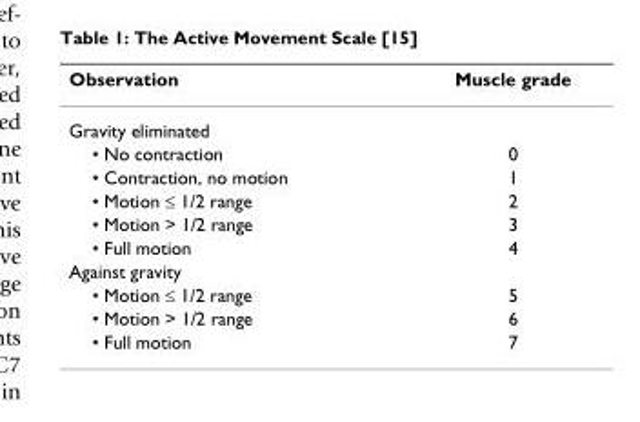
<table><thead><tr><td>Observation</td><td>Muscle grade</td></tr></thead><tbody><tr><td colspan="2">Gravity eliminated</td></tr><tr><td>• No contraction</td><td>0</td></tr><tr><td>• Contraction, no motion</td><td>1</td></tr><tr><td>• Motion ≤ 1/2 range</td><td>2</td></tr><tr><td>• Motion &gt; 1/2 range</td><td>3</td></tr><tr><td>• Full motion</td><td>4</td></tr><tr><td colspan="2">Against gravity</td></tr><tr><td>• Motion ≤ 1/2 range</td><td>5</td></tr><tr><td>• Motion &gt; 1/2 range</td><td>6</td></tr><tr><td>• Full motion</td><td>7</td></tr></tbody></table>